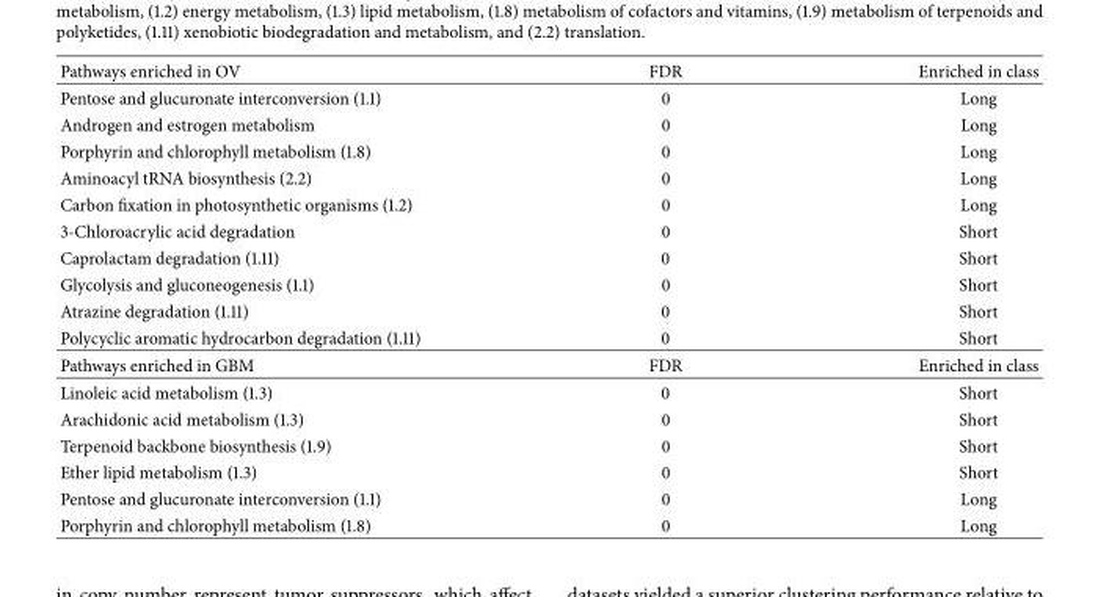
<table><thead><tr><td>Pathways enriched in OV</td><td>FDR</td><td>Enriched in class</td></tr></thead><tbody><tr><td>Pentose and glucuronate interconversion (1.1)</td><td>0</td><td>Long</td></tr><tr><td>Androgen and estrogen metabolism</td><td>0</td><td>Long</td></tr><tr><td>Porphyrin and chlorophyll metabolism (1.8)</td><td>0</td><td>Long</td></tr><tr><td>Aminoacyl tRNA biosynthesis (2.2)</td><td>0</td><td>Long</td></tr><tr><td>Carbon fixation in photosynthetic organisms (1.2)</td><td>0</td><td>Long</td></tr><tr><td>3-Chloroacrylic acid degradation</td><td>0</td><td>Short</td></tr><tr><td>Caprolactam degradation (1.11)</td><td>0</td><td>Short</td></tr><tr><td>Glycolysis and gluconeogenesis (1.1)</td><td>0</td><td>Short</td></tr><tr><td>Atrazine degradation (1.11)</td><td>0</td><td>Short</td></tr><tr><td>Polycyclic aromatic hydrocarbon degradation (1.11)</td><td>0</td><td>Short</td></tr><tr><td>Pathways enriched in GBM</td><td>FDR</td><td>Enriched in class</td></tr><tr><td>Linoleic acid metabolism (1.3)</td><td>0</td><td>Short</td></tr><tr><td>Arachidonic acid metabolism (1.3)</td><td>0</td><td>Short</td></tr><tr><td>Terpenoid backbone biosynthesis (1.9)</td><td>0</td><td>Short</td></tr><tr><td>Ether lipid metabolism (1.3)</td><td>0</td><td>Short</td></tr><tr><td>Pentose and glucuronate interconversion (1.1)</td><td>0</td><td>Long</td></tr><tr><td>Porphyrin and chlorophyll metabolism (1.8)</td><td>0</td><td>Long</td></tr></tbody></table>